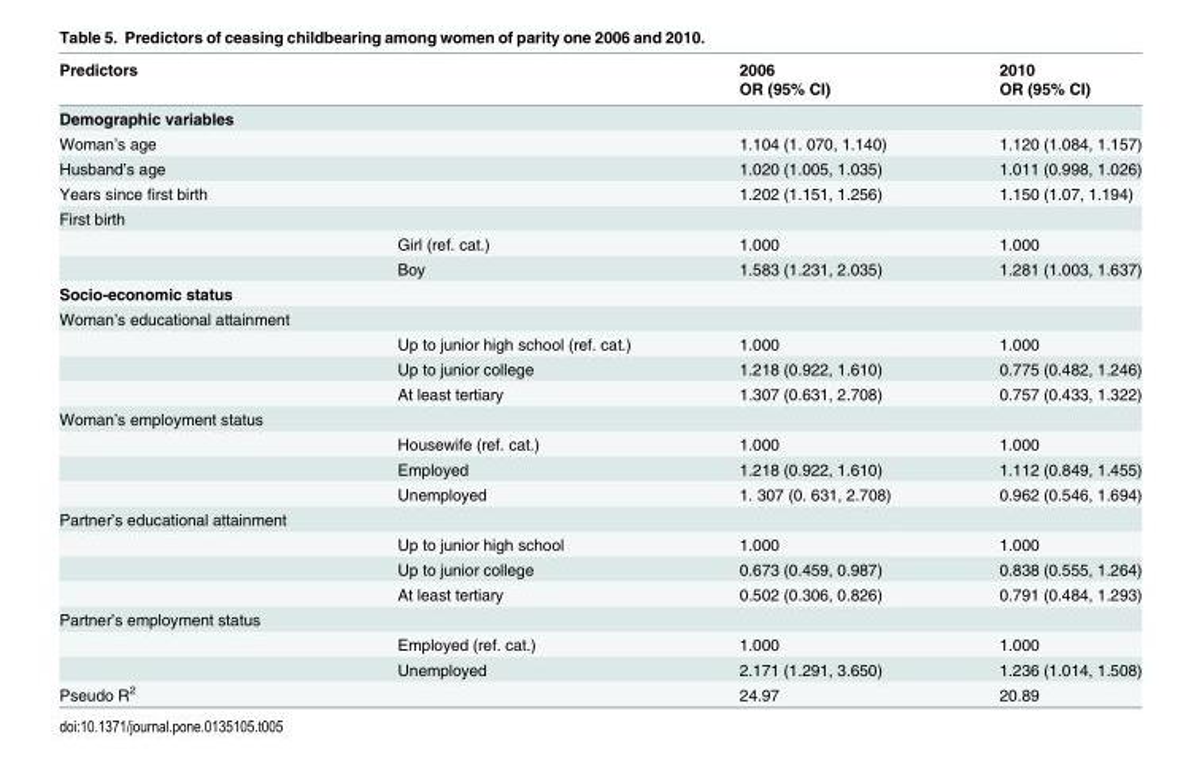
<table><thead><tr><td rowspan="2">Predictors</td><td rowspan="2"></td><td rowspan="2">2006 OR (95% CI)</td><td rowspan="2">2010 OR (95% CI)</td></tr><tr></tr></thead><tbody><tr><td colspan="4">Demographic variables</td></tr><tr><td>Woman’s age</td><td></td><td>1.104 (1. 070, 1.140)</td><td>1.120 (1.084, 1.157)</td></tr><tr><td>Husband’s age</td><td></td><td>1.020 (1.005, 1.035)</td><td>1.011 (0.998, 1.026)</td></tr><tr><td>Years since first birth</td><td></td><td>1.202 (1.151, 1.256)</td><td>1.150 (1.07, 1.194)</td></tr><tr><td colspan="4">First birth</td></tr><tr><td></td><td>Girl (ref. cat.)</td><td>1.000</td><td>1.000</td></tr><tr><td></td><td>Boy</td><td>1.583 (1.231, 2.035)</td><td>1.281 (1.003, 1.637)</td></tr><tr><td colspan="4">Socio-economic status</td></tr><tr><td colspan="4">Woman’s educational attainment</td></tr><tr><td></td><td>Up to junior high school (ref. cat.)</td><td>1.000</td><td>1.000</td></tr><tr><td></td><td>Up to junior college</td><td>1.218 (0.922, 1.610)</td><td>0.775 (0.482, 1.246)</td></tr><tr><td></td><td>At least tertiary</td><td>1.307 (0.631, 2.708)</td><td>0.757 (0.433, 1.322)</td></tr><tr><td colspan="4">Woman’s employment status</td></tr><tr><td></td><td>Housewife (ref. cat.)</td><td>1.000</td><td>1.000</td></tr><tr><td></td><td>Employed</td><td>1.218 (0.922, 1.610)</td><td>1.112 (0.849, 1.455)</td></tr><tr><td></td><td>Unemployed</td><td>1. 307 (0. 631, 2.708)</td><td>0.962 (0.546, 1.694)</td></tr><tr><td colspan="4">Partner’s educational attainment</td></tr><tr><td></td><td>Up to junior high school</td><td>1.000</td><td>1.000</td></tr><tr><td></td><td>Up to junior college</td><td>0.673 (0.459, 0.987)</td><td>0.838 (0.555, 1.264)</td></tr><tr><td></td><td>At least tertiary</td><td>0.502 (0.306, 0.826)</td><td>0.791 (0.484, 1.293)</td></tr><tr><td colspan="4">Partner’s employment status</td></tr><tr><td></td><td>Employed (ref. cat.)</td><td>1.000</td><td>1.000</td></tr><tr><td></td><td>Unemployed</td><td>2.171 (1.291, 3.650)</td><td>1.236 (1.014, 1.508)</td></tr><tr><td>Pseudo R<sup>2</sup></td><td></td><td>24.97</td><td>20.89</td></tr></tbody></table>